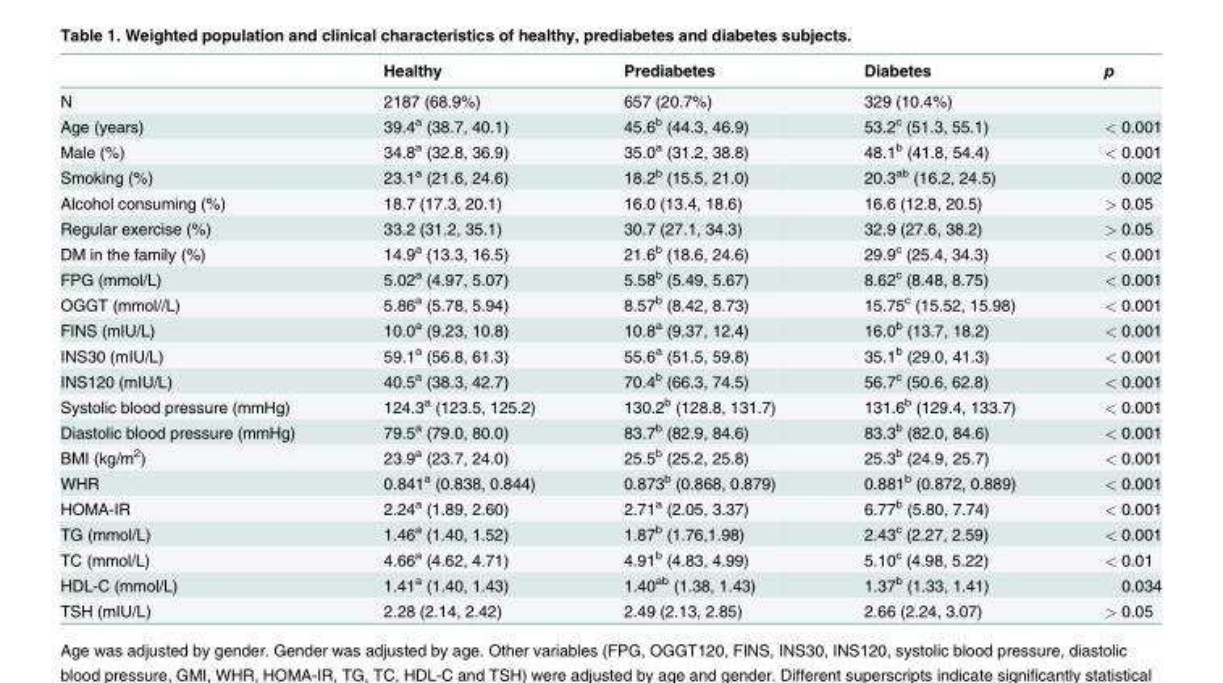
<table><thead><tr><td></td><td>Healthy</td><td>Prediabetes</td><td>Diabetes</td><td>p</td></tr></thead><tbody><tr><td>N</td><td>2187 (68.9%)</td><td>657 (20.7%)</td><td>329 (10.4%)</td><td></td></tr><tr><td>Age (years)</td><td>39.4<sup>a</sup> (38.7, 40.1)</td><td>45.6<sup>b</sup> (44.3, 46.9)</td><td>53.2<sup>c</sup> (51.3, 55.1)</td><td>&lt; 0.001</td></tr><tr><td>Male (%)</td><td>34.8<sup>a</sup> (32.8, 36.9)</td><td>35.0<sup>a</sup> (31.2, 38.8)</td><td>48.1<sup>b</sup> (41.8, 54.4)</td><td>&lt; 0.001</td></tr><tr><td>Smoking (%)</td><td>23.1<sup>a</sup> (21.6, 24.6)</td><td>18.2<sup>b</sup> (15.5, 21.0)</td><td>20.3<sup>ab</sup> (16.2, 24.5)</td><td>0.002</td></tr><tr><td>Alcohol consuming (%)</td><td>18.7 (17.3, 20.1)</td><td>16.0 (13.4, 18.6)</td><td>16.6 (12.8, 20.5)</td><td>&gt; 0.05</td></tr><tr><td>Regular exercise (%)</td><td>33.2 (31.2, 35.1)</td><td>30.7 (27.1, 34.3)</td><td>32.9 (27.6, 38.2)</td><td>&gt; 0.05</td></tr><tr><td>DM in the family (%)</td><td>14.9<sup>a</sup> (13.3, 16.5)</td><td>21.6<sup>b</sup> (18.6, 24.6)</td><td>29.9<sup>c</sup> (25.4, 34.3)</td><td>&lt; 0.001</td></tr><tr><td>FPG (mmol/L)</td><td>5.02<sup>a</sup> (4.97, 5.07)</td><td>5.58<sup>b</sup> (5.49, 5.67)</td><td>8.62<sup>c</sup> (8.48, 8.75)</td><td>&lt; 0.001</td></tr><tr><td>OGGT (mmol//L)</td><td>5.86<sup>a</sup> (5.78, 5.94)</td><td>8.57<sup>b</sup> (8.42, 8.73)</td><td>15.75<sup>c</sup> (15.52, 15.98)</td><td>&lt; 0.001</td></tr><tr><td>FINS (mIU/L)</td><td>10.0<sup>a</sup> (9.23, 10.8)</td><td>10.8<sup>a</sup> (9.37, 12.4)</td><td>16.0<sup>b</sup> (13.7, 18.2)</td><td>&lt; 0.001</td></tr><tr><td>INS30 (mIU/L)</td><td>59.1<sup>a</sup> (56.8, 61.3)</td><td>55.6<sup>a</sup> (51.5, 59.8)</td><td>35.1<sup>b</sup> (29.0, 41.3)</td><td>&lt; 0.001</td></tr><tr><td>INS120 (mIU/L)</td><td>40.5<sup>a</sup> (38.3, 42.7)</td><td>70.4<sup>b</sup> (66.3, 74.5)</td><td>56.7<sup>c</sup> (50.6, 62.8)</td><td>&lt; 0.001</td></tr><tr><td>Systolic blood pressure (mmHg)</td><td>124.3<sup>a</sup> (123.5, 125.2)</td><td>130.2<sup>b</sup> (128.8, 131.7)</td><td>131.6<sup>b</sup> (129.4, 133.7)</td><td>&lt; 0.001</td></tr><tr><td>Diastolic blood pressure (mmHg)</td><td>79.5<sup>a</sup> (79.0, 80.0)</td><td>83.7<sup>b</sup> (82.9, 84.6)</td><td>83.3<sup>b</sup> (82.0, 84.6)</td><td>&lt; 0.001</td></tr><tr><td>BMI (kg/m<sup>2</sup>)</td><td>23.9<sup>a</sup> (23.7, 24.0)</td><td>25.5<sup>b</sup> (25.2, 25.8)</td><td>25.3<sup>b</sup> (24.9, 25.7)</td><td>&lt; 0.001</td></tr><tr><td>WHR</td><td>0.841<sup>a</sup> (0.838, 0.844)</td><td>0.873<sup>b</sup> (0.868, 0.879)</td><td>0.881<sup>b</sup> (0.872, 0.889)</td><td>&lt; 0.001</td></tr><tr><td>HOMA-IR</td><td>2.24<sup>a</sup> (1.89, 2.60)</td><td>2.71<sup>a</sup> (2.05, 3.37)</td><td>6.77<sup>b</sup> (5.80, 7.74)</td><td>&lt; 0.001</td></tr><tr><td>TG (mmol/L)</td><td>1.46<sup>a</sup> (1.40, 1.52)</td><td>1.87<sup>b</sup> (1.76,1.98)</td><td>2.43<sup>c</sup> (2.27, 2.59)</td><td>&lt; 0.001</td></tr><tr><td>TC (mmol/L)</td><td>4.66<sup>a</sup> (4.62, 4.71)</td><td>4.91<sup>b</sup> (4.83, 4.99)</td><td>5.10<sup>c</sup> (4.98, 5.22)</td><td>&lt; 0.01</td></tr><tr><td>HDL-C (mmol/L)</td><td>1.41<sup>a</sup> (1.40, 1.43)</td><td>1.40<sup>ab</sup> (1.38, 1.43)</td><td>1.37<sup>b</sup> (1.33, 1.41)</td><td>0.034</td></tr><tr><td>TSH (mIU/L)</td><td>2.28 (2.14, 2.42)</td><td>2.49 (2.13, 2.85)</td><td>2.66 (2.24, 3.07)</td><td>&gt; 0.05</td></tr></tbody></table>